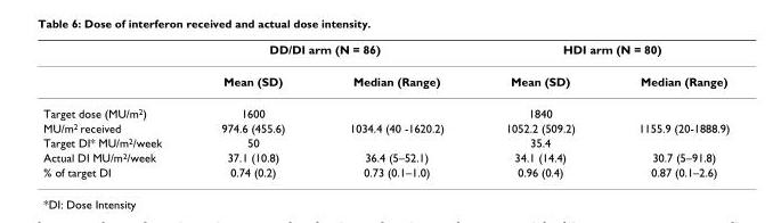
<table><thead><tr><td rowspan="2"></td><td colspan="2">DD/DI arm (N = 86)</td><td colspan="2">HDI arm (N = 80)</td></tr><tr><td>Mean (SD)</td><td>Median (Range)</td><td>Mean (SD)</td><td>Median (Range)</td></tr></thead><tbody><tr><td>Target dose (MU/m2)</td><td>1600</td><td></td><td>1840</td><td></td></tr><tr><td>MU/m2 received</td><td>974.6 (455.6)</td><td>1034.4 (40 -1620.2)</td><td>1052.2 (509.2)</td><td>1155.9 (20-1888.9)</td></tr><tr><td>Target DI* MU/m2/week</td><td>50</td><td></td><td>35.4</td><td></td></tr><tr><td>Actual DI MU/m2/week</td><td>37.1 (10.8)</td><td>36.4 (5–52.1)</td><td>34.1 (14.4)</td><td>30.7 (5–91.8)</td></tr><tr><td>% of target DI</td><td>0.74 (0.2)</td><td>0.73 (0.1–1.0)</td><td>0.96 (0.4)</td><td>0.87 (0.1–2.6)</td></tr></tbody></table>